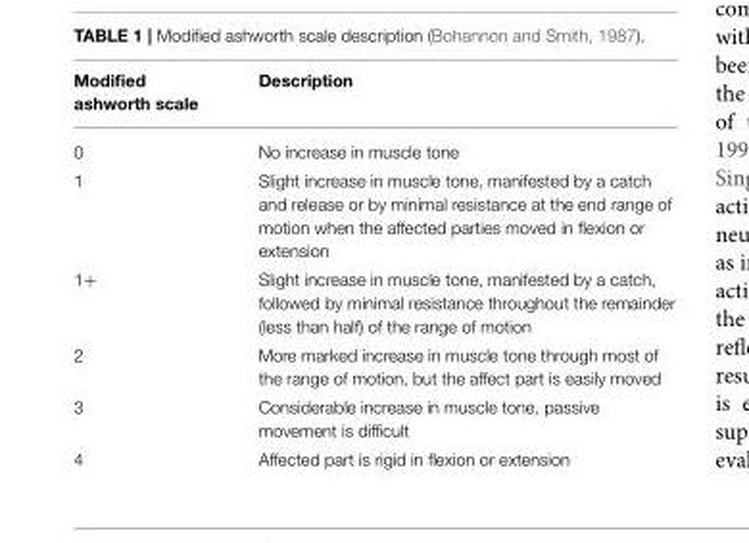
<table><thead><tr><td>Modified ashworth scale</td><td>Description</td></tr></thead><tbody><tr><td>0</td><td>No increase in muscle tone</td></tr><tr><td>1</td><td>Slight increase in muscle tone, manifested by a catch and release or by minimal resistance at the end range of motion when the affected parties moved in flexion or extension</td></tr><tr><td>1+</td><td>Slight increase in muscle tone, manifested by a catch, followed by minimal resistance throughout the remainder (less than half) of the range of motion</td></tr><tr><td>2</td><td>More marked increase in muscle tone through most of the range of motion, but the affect part is easily moved</td></tr><tr><td>3</td><td>Considerable increase in muscle tone, passive movement is difficult</td></tr><tr><td>4</td><td>Affected part is rigid in flexion or extension</td></tr></tbody></table>